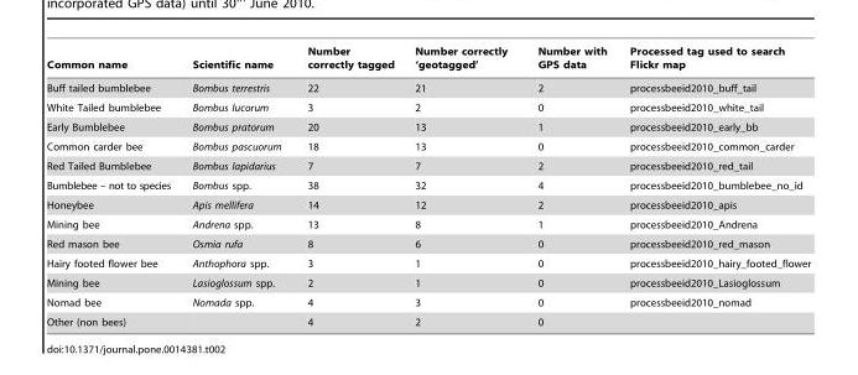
<table><thead><tr><td>Common name</td><td>Scientific name</td><td>Number correctly tagged</td><td>Number correctly ‘geotagged’</td><td>Number with GPS data</td><td>Processed tag used to search Flickr map</td></tr></thead><tbody><tr><td>Buff tailed bumblebee</td><td>Bombus terrestris</td><td>22</td><td>21</td><td>2</td><td>processbeeid2010_buff_tail</td></tr><tr><td>White Tailed bumblebee</td><td>Bombus lucorum</td><td>3</td><td>2</td><td>0</td><td>processbeeid2010_white_tail</td></tr><tr><td>Early Bumblebee</td><td>Bombus pratorum</td><td>20</td><td>13</td><td>1</td><td>processbeeid2010_early_bb</td></tr><tr><td>Common carder bee</td><td>Bombus pascuorum</td><td>18</td><td>13</td><td>0</td><td>processbeeid2010_common_carder</td></tr><tr><td>Red Tailed Bumblebee</td><td>Bombus lapidarius</td><td>7</td><td>7</td><td>2</td><td>processbeeid2010_red_tail</td></tr><tr><td>Bumblebee – not to species</td><td>Bombus spp.</td><td>38</td><td>32</td><td>4</td><td>processbeeid2010_bumblebee_no_id</td></tr><tr><td>Honeybee</td><td>Apis mellifera</td><td>14</td><td>12</td><td>2</td><td>processbeeid2010_apis</td></tr><tr><td>Mining bee</td><td>Andrena spp.</td><td>13</td><td>8</td><td>1</td><td>processbeeid2010_Andrena</td></tr><tr><td>Red mason bee</td><td>Osmia rufa</td><td>8</td><td>6</td><td>0</td><td>processbeeid2010_red_mason</td></tr><tr><td>Hairy footed flower bee</td><td>Anthophora spp.</td><td>3</td><td>1</td><td>0</td><td>processbeeid2010_hairy_footed_flower</td></tr><tr><td>Mining bee</td><td>Lasioglossum spp.</td><td>2</td><td>1</td><td>0</td><td>processbeeid2010_Lasioglossum</td></tr><tr><td>Nomad bee</td><td>Nomada spp.</td><td>4</td><td>3</td><td>0</td><td>processbeeid2010_nomad</td></tr><tr><td>Other (non bees)</td><td></td><td>4</td><td>2</td><td>0</td><td></td></tr></tbody></table>